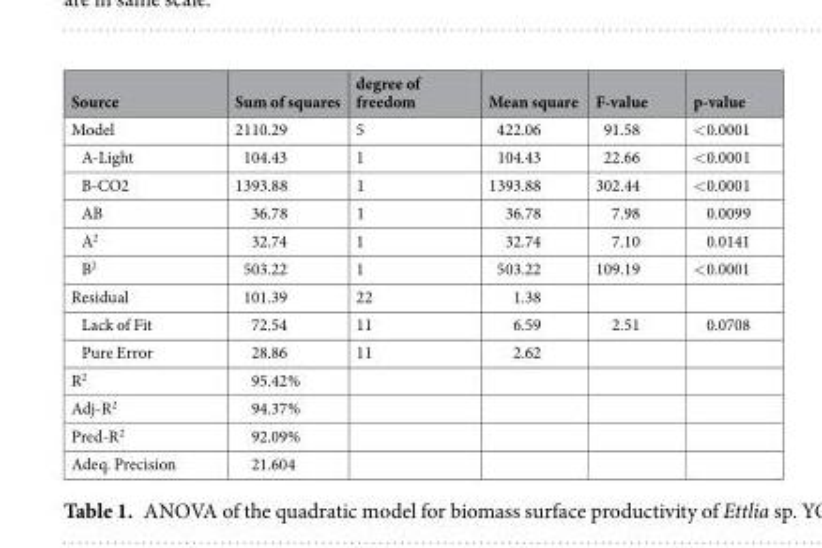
<table><thead><tr><td>Source</td><td>Sum of squares</td><td>degree of freedom</td><td>Mean square</td><td>F-value</td><td>p-value</td></tr></thead><tbody><tr><td>Model</td><td>2110.29</td><td>5</td><td>422.06</td><td>91.58</td><td>&lt;0.0001</td></tr><tr><td>A-Light</td><td>104.43</td><td>1</td><td>104.43</td><td>22.66</td><td>&lt;0.0001</td></tr><tr><td>B-CO2</td><td>1393.88</td><td>1</td><td>1393.88</td><td>302.44</td><td>&lt;0.0001</td></tr><tr><td>AB</td><td>36.78</td><td>1</td><td>36.78</td><td>7.98</td><td>0.0099</td></tr><tr><td>A<sup>2</sup></td><td>32.74</td><td>1</td><td>32.74</td><td>7.10</td><td>0.0141</td></tr><tr><td>B<sup>2</sup></td><td>503.22</td><td>1</td><td>503.22</td><td>109.19</td><td>&lt;0.0001</td></tr><tr><td>Residual</td><td>101.39</td><td>22</td><td>1.38</td><td></td><td></td></tr><tr><td>Lack of Fit</td><td>72.54</td><td>11</td><td>6.59</td><td>2.51</td><td>0.0708</td></tr><tr><td>Pure Error</td><td>28.86</td><td>11</td><td>2.62</td><td></td><td></td></tr><tr><td>R<sup>2</sup></td><td>95.42%</td><td></td><td></td><td></td><td></td></tr><tr><td>Adj-R<sup>2</sup></td><td>94.37%</td><td></td><td></td><td></td><td></td></tr><tr><td>Pred-R<sup>2</sup></td><td>92.09%</td><td></td><td></td><td></td><td></td></tr><tr><td>Adeq. Precision</td><td>21.604</td><td></td><td></td><td></td><td></td></tr></tbody></table>